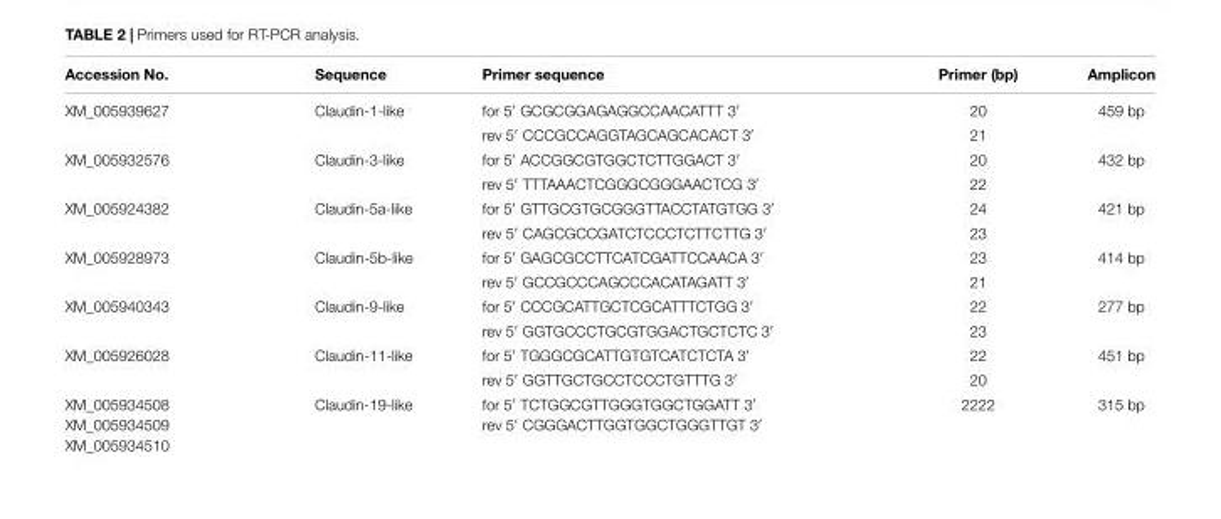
<table><thead><tr><td>Accession No.</td><td>Sequence</td><td>Primer sequence</td><td>Primer (bp)</td><td>Amplicon</td></tr></thead><tbody><tr><td rowspan="2">XM_005939627</td><td>Claudin-1-like</td><td>for 5′ GCGCGGAGAGGCCAACATTT 3′</td><td>20</td><td>459 bp</td></tr><tr><td></td><td>rev 5′ CCCGCCAGGTAGCAGCACACT 3′</td><td>21</td><td></td></tr><tr><td rowspan="2">XM_005932576</td><td>Claudin-3-like</td><td>for 5′ ACCGGCGTGGCTCTTGGACT 3′</td><td>20</td><td>432 bp</td></tr><tr><td></td><td>rev 5′ TTTAAACTCGGGCGGGAACTCG 3′</td><td>22</td><td></td></tr><tr><td rowspan="2">XM_005924382</td><td>Claudin-5a-like</td><td>for 5′ GTTGCGTGCGGGTTACCTATGTGG 3′</td><td>24</td><td>421 bp</td></tr><tr><td></td><td>rev 5′ CAGCGCCGATCTCCCTCTTCTTG 3′</td><td>23</td><td></td></tr><tr><td rowspan="2">XM_005928973</td><td>Claudin-5b-like</td><td>for 5′ GAGCGCCTTCATCGATTCCAACA 3′</td><td>23</td><td>414 bp</td></tr><tr><td></td><td>rev 5′ GCCGCCCAGCCCACATAGATT 3′</td><td>21</td><td></td></tr><tr><td rowspan="2">XM_005940343</td><td>Claudin-9-like</td><td>for 5′ CCCGCATTGCTCGCATTTCTGG 3′</td><td>22</td><td>277 bp</td></tr><tr><td></td><td>rev 5′ GGTGCCCTGCGTGGACTGCTCTC 3′</td><td>23</td><td></td></tr><tr><td rowspan="2">XM_005926028</td><td>Claudin-11-like</td><td>for 5′ TGGGCGCATTGTGTCATCTCTA 3′</td><td>22</td><td>451 bp</td></tr><tr><td></td><td>rev 5′ GGTTGCTGCCTCCCTGTTTG 3′</td><td>20</td><td></td></tr><tr><td>XM_005934508 XM_005934509 XM_005934510</td><td>Claudin-19-like</td><td>for 5′ TCTGGCGTTGGGTGGCTGGATT 3′ rev 5′ CGGGACTTGGTGGCTGGGTTGT 3′</td><td>2222</td><td>315 bp</td></tr></tbody></table>